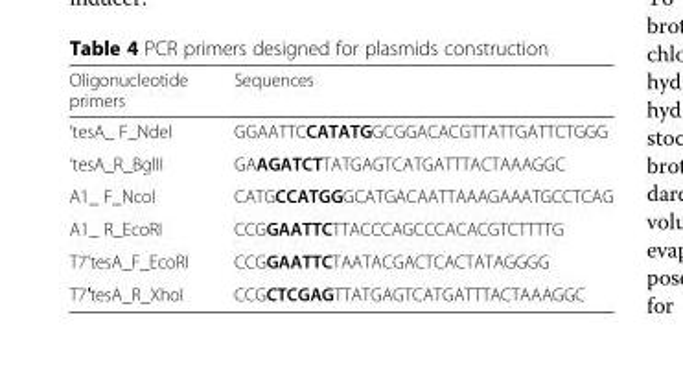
<table><thead><tr><td>Oligonucleotide primers</td><td>Sequences</td></tr></thead><tbody><tr><td>‘tesA_ F_NdeI</td><td>GGAATTCCATATGGCGGACACGTTATTGATTCTGGG</td></tr><tr><td>‘tesA_R_BglII</td><td>GAAGATCTTATGAGTCATGATTTACTAAAGGC</td></tr><tr><td>A1_ F_NcoI</td><td>CATGCCATGGGCATGACAATTAAAGAAATGCCTCAG</td></tr><tr><td>A1_ R_EcoRI</td><td>CCGGAATTCTTACCCAGCCCACACGTCTTTTG</td></tr><tr><td>T7&#x27;tesA_F_EcoRI</td><td>CCGGAATTCTAATACGACTCACTATAGGGG</td></tr><tr><td>T7′tesA_R_XhoI</td><td>CCGCTCGAGTTATGAGTCATGATTTACTAAAGGC</td></tr></tbody></table>